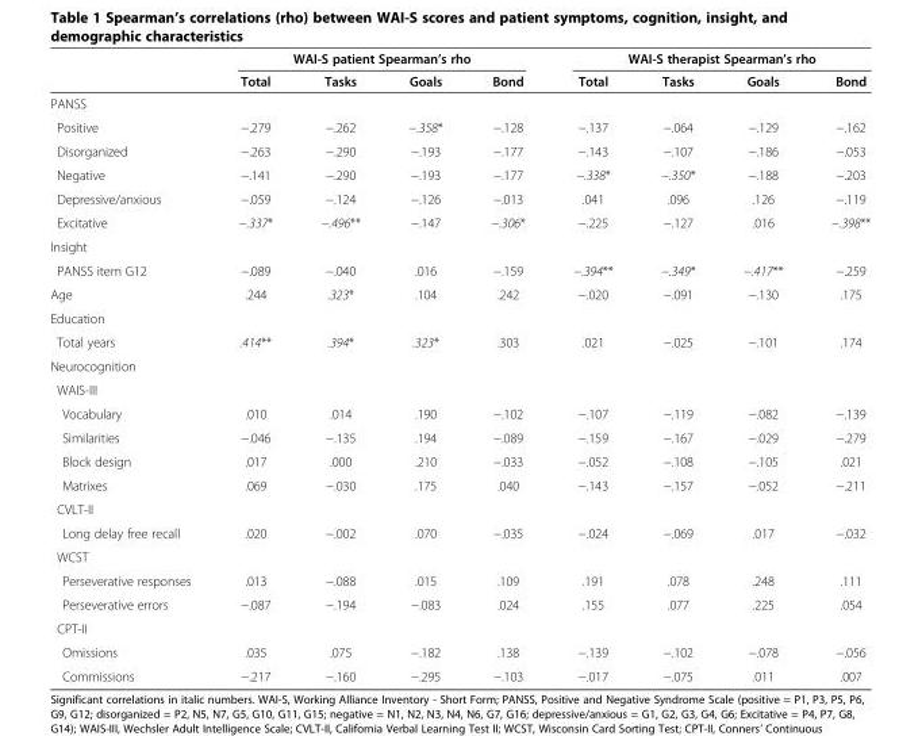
<table><thead><tr><td rowspan="2"></td><td colspan="4">WAI-S patient Spearman’s rho</td><td colspan="4">WAI-S therapist Spearman’s rho</td></tr><tr><td>Total</td><td>Tasks</td><td>Goals</td><td>Bond</td><td>Total</td><td>Tasks</td><td>Goals</td><td>Bond</td></tr></thead><tbody><tr><td colspan="9">PANSS</td></tr><tr><td>Positive</td><td>−.279</td><td>−.262</td><td>−.358*</td><td>−.128</td><td>−.137</td><td>−.064</td><td>−.129</td><td>−.162</td></tr><tr><td>Disorganized</td><td>−.263</td><td>−.290</td><td>−.193</td><td>−.177</td><td>−.143</td><td>−.107</td><td>−.186</td><td>−.053</td></tr><tr><td>Negative</td><td>−.141</td><td>−.290</td><td>−.193</td><td>−.177</td><td>−.338*</td><td>−.350*</td><td>−.188</td><td>−.203</td></tr><tr><td>Depressive/anxious</td><td>−.059</td><td>−.124</td><td>−.126</td><td>−.013</td><td>.041</td><td>.096</td><td>.126</td><td>−.119</td></tr><tr><td>Excitative</td><td>−.337*</td><td>−.496**</td><td>−.147</td><td>−.306*</td><td>−.225</td><td>−.127</td><td>.016</td><td>−.398**</td></tr><tr><td colspan="9">Insight</td></tr><tr><td>PANSS item G12</td><td>−.089</td><td>−.040</td><td>.016</td><td>−.159</td><td>−.394**</td><td>−.349*</td><td>−.417**</td><td>−.259</td></tr><tr><td>Age</td><td>.244</td><td>.323*</td><td>.104</td><td>.242</td><td>−.020</td><td>−.091</td><td>−.130</td><td>.175</td></tr><tr><td colspan="9">Education</td></tr><tr><td>Total years</td><td>.414**</td><td>.394*</td><td>.323*</td><td>.303</td><td>.021</td><td>−.025</td><td>−.101</td><td>.174</td></tr><tr><td colspan="9">Neurocognition</td></tr><tr><td colspan="9">WAIS-III</td></tr><tr><td>Vocabulary</td><td>.010</td><td>.014</td><td>.190</td><td>−.102</td><td>−.107</td><td>−.119</td><td>−.082</td><td>−.139</td></tr><tr><td>Similarities</td><td>−.046</td><td>−.135</td><td>.194</td><td>−.089</td><td>−.159</td><td>−.167</td><td>−.029</td><td>−.279</td></tr><tr><td>Block design</td><td>.017</td><td>.000</td><td>.210</td><td>−.033</td><td>−.052</td><td>−.108</td><td>−.105</td><td>.021</td></tr><tr><td>Matrixes</td><td>.069</td><td>−.030</td><td>.175</td><td>.040</td><td>−.143</td><td>−.157</td><td>−.052</td><td>−.211</td></tr><tr><td colspan="9">CVLT-II</td></tr><tr><td>Long delay free recall</td><td>.020</td><td>−.002</td><td>.070</td><td>−.035</td><td>−.024</td><td>−.069</td><td>.017</td><td>−.032</td></tr><tr><td colspan="9">WCST</td></tr><tr><td>Perseverative responses</td><td>.013</td><td>−.088</td><td>.015</td><td>.109</td><td>.191</td><td>.078</td><td>.248</td><td>.111</td></tr><tr><td>Perseverative errors</td><td>−.087</td><td>−.194</td><td>−.083</td><td>.024</td><td>.155</td><td>.077</td><td>.225</td><td>.054</td></tr><tr><td colspan="9">CPT-II</td></tr><tr><td>Omissions</td><td>.035</td><td>.075</td><td>−.182</td><td>.138</td><td>−.139</td><td>−.102</td><td>−.078</td><td>−.056</td></tr><tr><td>Commissions</td><td>−.217</td><td>−.160</td><td>−.295</td><td>−.103</td><td>−.017</td><td>−.075</td><td>.011</td><td>.007</td></tr></tbody></table>